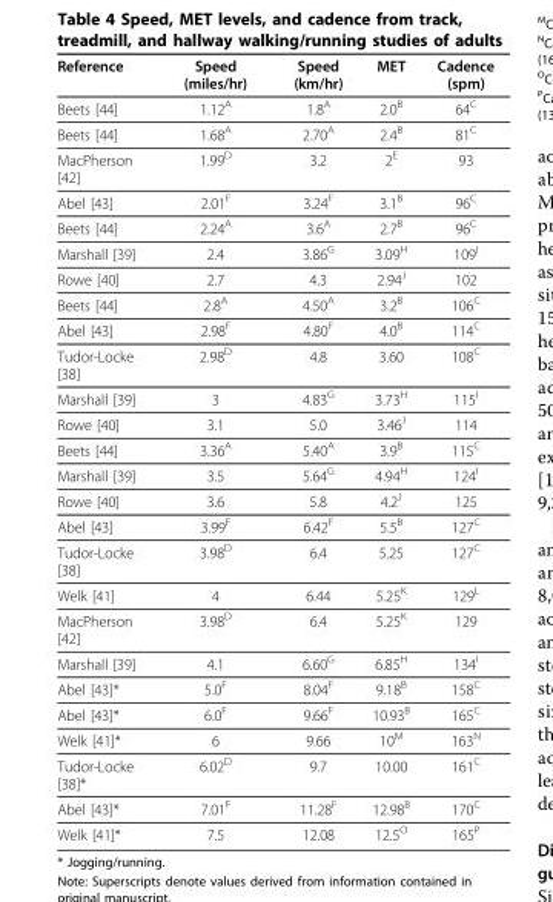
<table><thead><tr><td>Reference</td><td>Speed (miles/hr)</td><td>Speed (km/hr)</td><td>MET</td><td>Cadence (spm)</td></tr></thead><tbody><tr><td>Beets [44]</td><td>1.12<sup>A</sup></td><td>1.8<sup>A</sup></td><td>2.0<sup>B</sup></td><td>64<sup>C</sup></td></tr><tr><td>Beets [44]</td><td>1.68<sup>A</sup></td><td>2.70<sup>A</sup></td><td>2.4<sup>B</sup></td><td>81<sup>C</sup></td></tr><tr><td>MacPherson [42]</td><td>1.99<sup>D</sup></td><td>3.2</td><td>2<sup>E</sup></td><td>93</td></tr><tr><td>Abel [43]</td><td>2.01<sup>F</sup></td><td>3.24<sup>F</sup></td><td>3.1<sup>B</sup></td><td>96<sup>C</sup></td></tr><tr><td>Beets [44]</td><td>2.24<sup>A</sup></td><td>3.6<sup>A</sup></td><td>2.7<sup>B</sup></td><td>96<sup>C</sup></td></tr><tr><td>Marshall [39]</td><td>2.4</td><td>3.86<sup>G</sup></td><td>3.09<sup>H</sup></td><td>109<sup>I</sup></td></tr><tr><td>Rowe [40]</td><td>2.7</td><td>4.3</td><td>2.94<sup>J</sup></td><td>102</td></tr><tr><td>Beets [44]</td><td>2.8<sup>A</sup></td><td>4.50<sup>A</sup></td><td>3.2<sup>B</sup></td><td>106<sup>C</sup></td></tr><tr><td>Abel [43]</td><td>2.98<sup>F</sup></td><td>4.80<sup>F</sup></td><td>4.0<sup>B</sup></td><td>114<sup>C</sup></td></tr><tr><td>Tudor-Locke [38]</td><td>2.98<sup>D</sup></td><td>4.8</td><td>3.60</td><td>108<sup>C</sup></td></tr><tr><td>Marshall [39]</td><td>3</td><td>4.83<sup>G</sup></td><td>3.73<sup>H</sup></td><td>115<sup>I</sup></td></tr><tr><td>Rowe [40]</td><td>3.1</td><td>5.0</td><td>3.46<sup>J</sup></td><td>114</td></tr><tr><td>Beets [44]</td><td>3.36<sup>A</sup></td><td>5.40<sup>A</sup></td><td>3.9<sup>B</sup></td><td>115<sup>C</sup></td></tr><tr><td>Marshall [39]</td><td>3.5</td><td>5.64<sup>G</sup></td><td>4.94<sup>H</sup></td><td>124<sup>I</sup></td></tr><tr><td>Rowe [40]</td><td>3.6</td><td>5.8</td><td>4.2<sup>J</sup></td><td>125</td></tr><tr><td>Abel [43]</td><td>3.99<sup>F</sup></td><td>6.42<sup>F</sup></td><td>5.5<sup>B</sup></td><td>127<sup>C</sup></td></tr><tr><td>Tudor-Locke [38]</td><td>3.98<sup>D</sup></td><td>6.4</td><td>5.25</td><td>127<sup>C</sup></td></tr><tr><td>Welk [41]</td><td>4</td><td>6.44</td><td>5.25<sup>K</sup></td><td>129<sup>L</sup></td></tr><tr><td>MacPherson [42]</td><td>3.98<sup>D</sup></td><td>6.4</td><td>5.25<sup>K</sup></td><td>129</td></tr><tr><td>Marshall [39]</td><td>4.1</td><td>6.60<sup>G</sup></td><td>6.85<sup>H</sup></td><td>134<sup>I</sup></td></tr><tr><td>Abel [43]*</td><td>5.0<sup>F</sup></td><td>8.04<sup>F</sup></td><td>9.18<sup>B</sup></td><td>158<sup>C</sup></td></tr><tr><td>Abel [43]*</td><td>6.0<sup>F</sup></td><td>9.66<sup>F</sup></td><td>10.93<sup>B</sup></td><td>165<sup>C</sup></td></tr><tr><td>Welk [41]*</td><td>6</td><td>9.66</td><td>10<sup>M</sup></td><td>163<sup>N</sup></td></tr><tr><td>Tudor-Locke [38]*</td><td>6.02<sup>D</sup></td><td>9.7</td><td>10.00</td><td>161<sup>C</sup></td></tr><tr><td>Abel [43]*</td><td>7.01<sup>F</sup></td><td>11.28<sup>F</sup></td><td>12.98<sup>B</sup></td><td>170<sup>C</sup></td></tr><tr><td>Welk [41]*</td><td>7.5</td><td>12.08</td><td>12.5<sup>O</sup></td><td>165<sup>P</sup></td></tr></tbody></table>